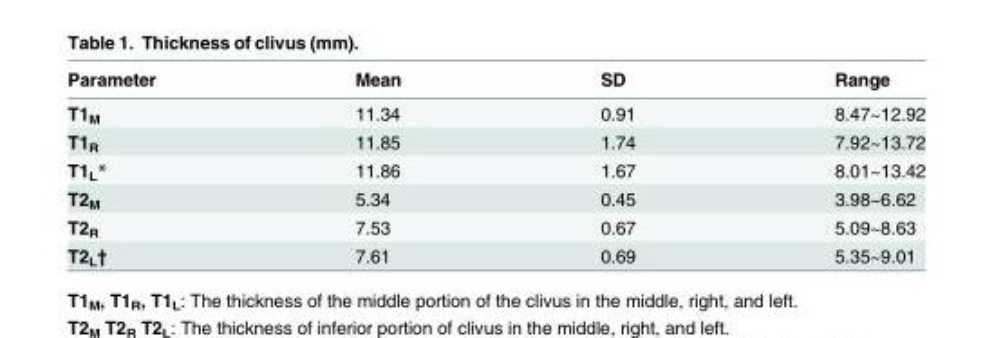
<table><thead><tr><td>Parameter</td><td>Mean</td><td>SD</td><td>Range</td></tr></thead><tbody><tr><td>T1<sub>M</sub></td><td>11.34</td><td>0.91</td><td>8.47~12.92</td></tr><tr><td>T1<sub>R</sub></td><td>11.85</td><td>1.74</td><td>7.92~13.72</td></tr><tr><td>T1<sub>L</sub>*</td><td>11.86</td><td>1.67</td><td>8.01~13.42</td></tr><tr><td>T2<sub>M</sub></td><td>5.34</td><td>0.45</td><td>3.98~6.62</td></tr><tr><td>T2<sub>R</sub></td><td>7.53</td><td>0.67</td><td>5.09~8.63</td></tr><tr><td>T2<sub>L</sub>†</td><td>7.61</td><td>0.69</td><td>5.35~9.01</td></tr></tbody></table>